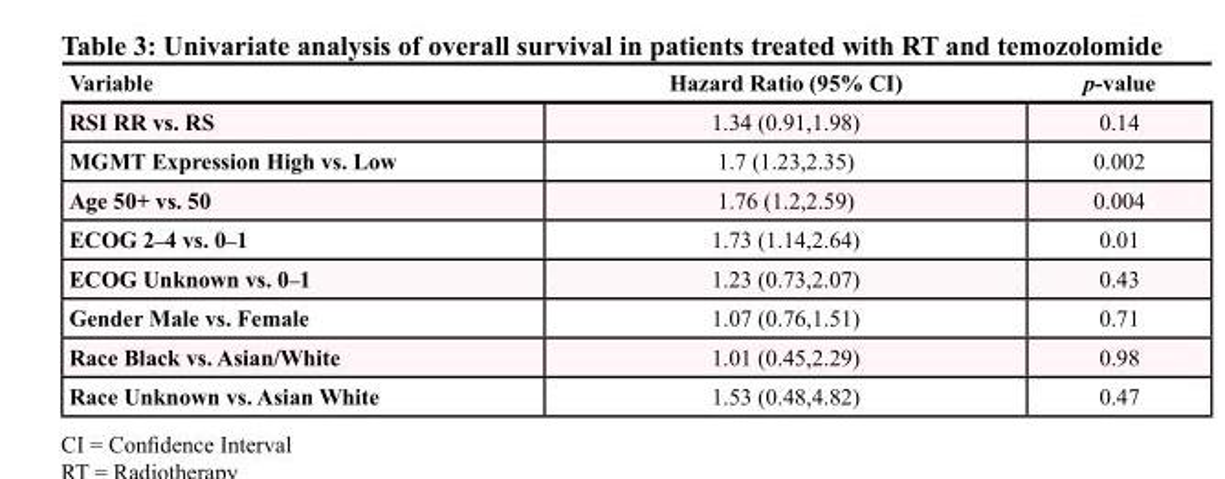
<table><thead><tr><td>Variable</td><td>Hazard Ratio (95% CI)</td><td>p-value</td></tr></thead><tbody><tr><td>RSI RR vs. RS</td><td>1.34 (0.91,1.98)</td><td>0.14</td></tr><tr><td>MGMT Expression High vs. Low</td><td>1.7 (1.23,2.35)</td><td>0.002</td></tr><tr><td>Age 50+ vs. 50</td><td>1.76 (1.2,2.59)</td><td>0.004</td></tr><tr><td>ECOG 2–4 vs. 0–1</td><td>1.73 (1.14,2.64)</td><td>0.01</td></tr><tr><td>ECOG Unknown vs. 0–1</td><td>1.23 (0.73,2.07)</td><td>0.43</td></tr><tr><td>Gender Male vs. Female</td><td>1.07 (0.76,1.51)</td><td>0.71</td></tr><tr><td>Race Black vs. Asian/White</td><td>1.01 (0.45,2.29)</td><td>0.98</td></tr><tr><td>Race Unknown vs. Asian White</td><td>1.53 (0.48,4.82)</td><td>0.47</td></tr></tbody></table>